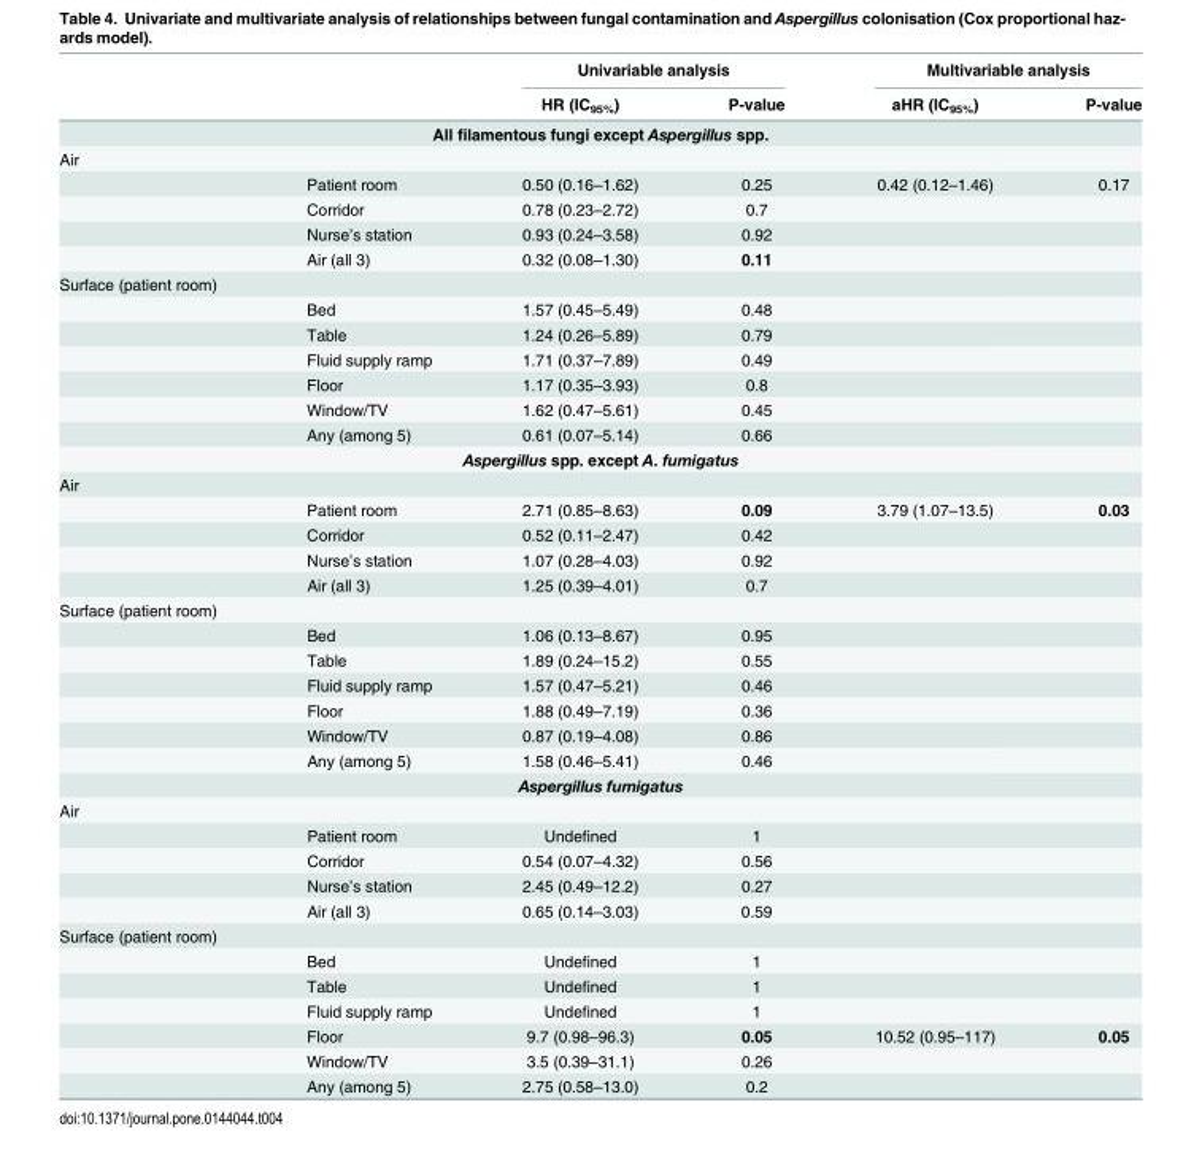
<table><thead><tr><td rowspan="2"></td><td rowspan="2"></td><td colspan="2">Univariable analysis</td><td colspan="2">Multivariable analysis</td></tr><tr><td>HR (IC<sub>95%</sub>)</td><td>P-value</td><td>aHR (IC<sub>95%</sub>)</td><td>P-value</td></tr></thead><tbody><tr><td colspan="6">All filamentous fungi except Aspergillus spp.</td></tr><tr><td colspan="6">Air</td></tr><tr><td></td><td>Patient room</td><td>0.50 (0.16–1.62)</td><td>0.25</td><td>0.42 (0.12–1.46)</td><td>0.17</td></tr><tr><td></td><td>Corridor</td><td>0.78 (0.23–2.72)</td><td>0.7</td><td></td><td></td></tr><tr><td></td><td>Nurse’s station</td><td>0.93 (0.24–3.58)</td><td>0.92</td><td></td><td></td></tr><tr><td></td><td>Air (all 3)</td><td>0.32 (0.08–1.30)</td><td>0.11</td><td></td><td></td></tr><tr><td colspan="6">Surface (patient room)</td></tr><tr><td></td><td>Bed</td><td>1.57 (0.45–5.49)</td><td>0.48</td><td></td><td></td></tr><tr><td></td><td>Table</td><td>1.24 (0.26–5.89)</td><td>0.79</td><td></td><td></td></tr><tr><td></td><td>Fluid supply ramp</td><td>1.71 (0.37–7.89)</td><td>0.49</td><td></td><td></td></tr><tr><td></td><td>Floor</td><td>1.17 (0.35–3.93)</td><td>0.8</td><td></td><td></td></tr><tr><td></td><td>Window/TV</td><td>1.62 (0.47–5.61)</td><td>0.45</td><td></td><td></td></tr><tr><td></td><td>Any (among 5)</td><td>0.61 (0.07–5.14)</td><td>0.66</td><td></td><td></td></tr><tr><td colspan="6">Aspergillus spp. except A. fumigatus</td></tr><tr><td colspan="6">Air</td></tr><tr><td></td><td>Patient room</td><td>2.71 (0.85–8.63)</td><td>0.09</td><td>3.79 (1.07–13.5)</td><td>0.03</td></tr><tr><td></td><td>Corridor</td><td>0.52 (0.11–2.47)</td><td>0.42</td><td></td><td></td></tr><tr><td></td><td>Nurse’s station</td><td>1.07 (0.28–4.03)</td><td>0.92</td><td></td><td></td></tr><tr><td></td><td>Air (all 3)</td><td>1.25 (0.39–4.01)</td><td>0.7</td><td></td><td></td></tr><tr><td colspan="6">Surface (patient room)</td></tr><tr><td></td><td>Bed</td><td>1.06 (0.13–8.67)</td><td>0.95</td><td></td><td></td></tr><tr><td></td><td>Table</td><td>1.89 (0.24–15.2)</td><td>0.55</td><td></td><td></td></tr><tr><td></td><td>Fluid supply ramp</td><td>1.57 (0.47–5.21)</td><td>0.46</td><td></td><td></td></tr><tr><td></td><td>Floor</td><td>1.88 (0.49–7.19)</td><td>0.36</td><td></td><td></td></tr><tr><td></td><td>Window/TV</td><td>0.87 (0.19–4.08)</td><td>0.86</td><td></td><td></td></tr><tr><td></td><td>Any (among 5)</td><td>1.58 (0.46–5.41)</td><td>0.46</td><td></td><td></td></tr><tr><td colspan="6">Aspergillus fumigatus</td></tr><tr><td colspan="6">Air</td></tr><tr><td></td><td>Patient room</td><td>Undefined</td><td>1</td><td></td><td></td></tr><tr><td></td><td>Corridor</td><td>0.54 (0.07–4.32)</td><td>0.56</td><td></td><td></td></tr><tr><td></td><td>Nurse’s station</td><td>2.45 (0.49–12.2)</td><td>0.27</td><td></td><td></td></tr><tr><td></td><td>Air (all 3)</td><td>0.65 (0.14–3.03)</td><td>0.59</td><td></td><td></td></tr><tr><td colspan="6">Surface (patient room)</td></tr><tr><td></td><td>Bed</td><td>Undefined</td><td>1</td><td></td><td></td></tr><tr><td></td><td>Table</td><td>Undefined</td><td>1</td><td></td><td></td></tr><tr><td></td><td>Fluid supply ramp</td><td>Undefined</td><td>1</td><td></td><td></td></tr><tr><td></td><td>Floor</td><td>9.7 (0.98–96.3)</td><td>0.05</td><td>10.52 (0.95–117)</td><td>0.05</td></tr><tr><td></td><td>Window/TV</td><td>3.5 (0.39–31.1)</td><td>0.26</td><td></td><td></td></tr><tr><td></td><td>Any (among 5)</td><td>2.75 (0.58–13.0)</td><td>0.2</td><td></td><td></td></tr></tbody></table>